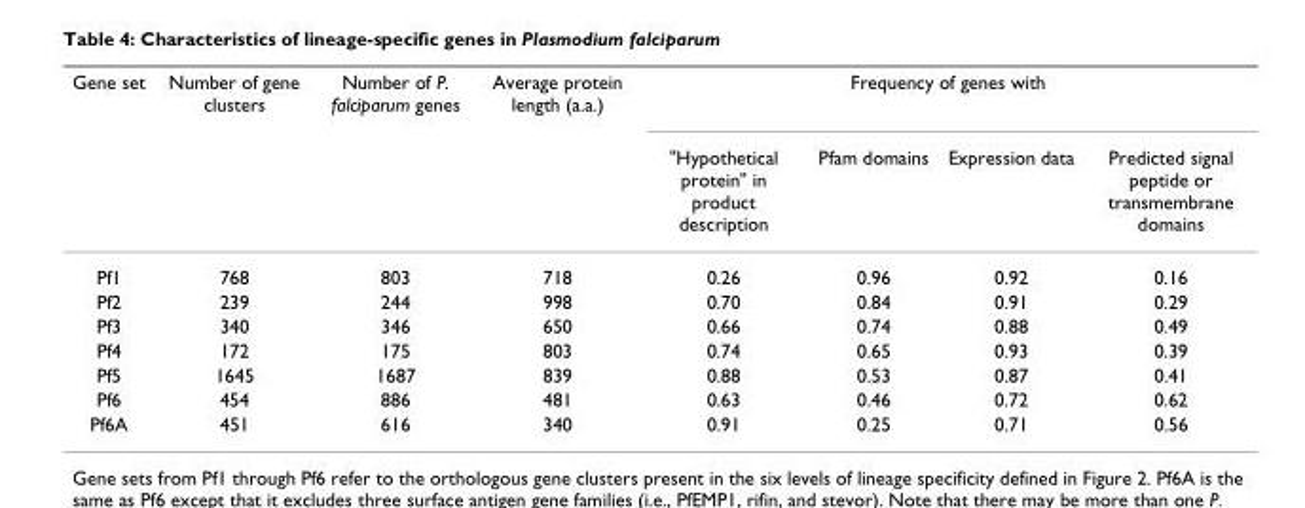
<table><thead><tr><td rowspan="2">Gene set</td><td rowspan="2">Number of gene clusters</td><td rowspan="2">Number of P. falciparum genes</td><td rowspan="2">Average protein length (a.a.)</td><td colspan="4">Frequency of genes with</td></tr><tr><td>&quot;Hypothetical protein&quot; in product description</td><td>Pfam domains</td><td>Expression data</td><td>Predicted signal peptide or transmembrane domains</td></tr></thead><tbody><tr><td>Pf1</td><td>768</td><td>803</td><td>718</td><td>0.26</td><td>0.96</td><td>0.92</td><td>0.16</td></tr><tr><td>Pf2</td><td>239</td><td>244</td><td>998</td><td>0.70</td><td>0.84</td><td>0.91</td><td>0.29</td></tr><tr><td>Pf3</td><td>340</td><td>346</td><td>650</td><td>0.66</td><td>0.74</td><td>0.88</td><td>0.49</td></tr><tr><td>Pf4</td><td>172</td><td>175</td><td>803</td><td>0.74</td><td>0.65</td><td>0.93</td><td>0.39</td></tr><tr><td>Pf5</td><td>1645</td><td>1687</td><td>839</td><td>0.88</td><td>0.53</td><td>0.87</td><td>0.41</td></tr><tr><td>Pf6</td><td>454</td><td>886</td><td>481</td><td>0.63</td><td>0.46</td><td>0.72</td><td>0.62</td></tr><tr><td>Pf6A</td><td>451</td><td>616</td><td>340</td><td>0.91</td><td>0.25</td><td>0.71</td><td>0.56</td></tr></tbody></table>